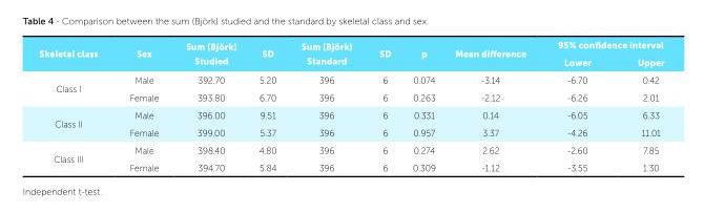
<table><thead><tr><td rowspan="2">Skeletal class</td><td rowspan="2">Sex</td><td rowspan="2">Sum (Björk) Studied</td><td rowspan="2">SD</td><td rowspan="2">Sum (Björk) Standard</td><td rowspan="2">SD</td><td rowspan="2">p</td><td rowspan="2">Mean difference</td><td colspan="2">95% confidence interval</td></tr><tr><td>Lower</td><td>Upper</td></tr></thead><tbody><tr><td rowspan="2">Class I</td><td>Male</td><td>392.70</td><td>5.20</td><td>396</td><td>6</td><td>0.074</td><td>-3.14</td><td>-6.70</td><td>0.42</td></tr><tr><td>Female</td><td>393.80</td><td>6.70</td><td>396</td><td>6</td><td>0.263</td><td>-2.12</td><td>-6.26</td><td>2.01</td></tr><tr><td rowspan="2">Class II</td><td>Male</td><td>396.00</td><td>9.51</td><td>396</td><td>6</td><td>0.331</td><td>0.14</td><td>-6.05</td><td>6.33</td></tr><tr><td>Female</td><td>399.00</td><td>5.37</td><td>396</td><td>6</td><td>0.957</td><td>3.37</td><td>-4.26</td><td>11.01</td></tr><tr><td rowspan="2">Class III</td><td>Male</td><td>398.40</td><td>4.80</td><td>396</td><td>6</td><td>0.274</td><td>2.62</td><td>-2.60</td><td>7.85</td></tr><tr><td>Female</td><td>394.70</td><td>5.84</td><td>396</td><td>6</td><td>0.309</td><td>-1.12</td><td>-3.55</td><td>1.30</td></tr></tbody></table>